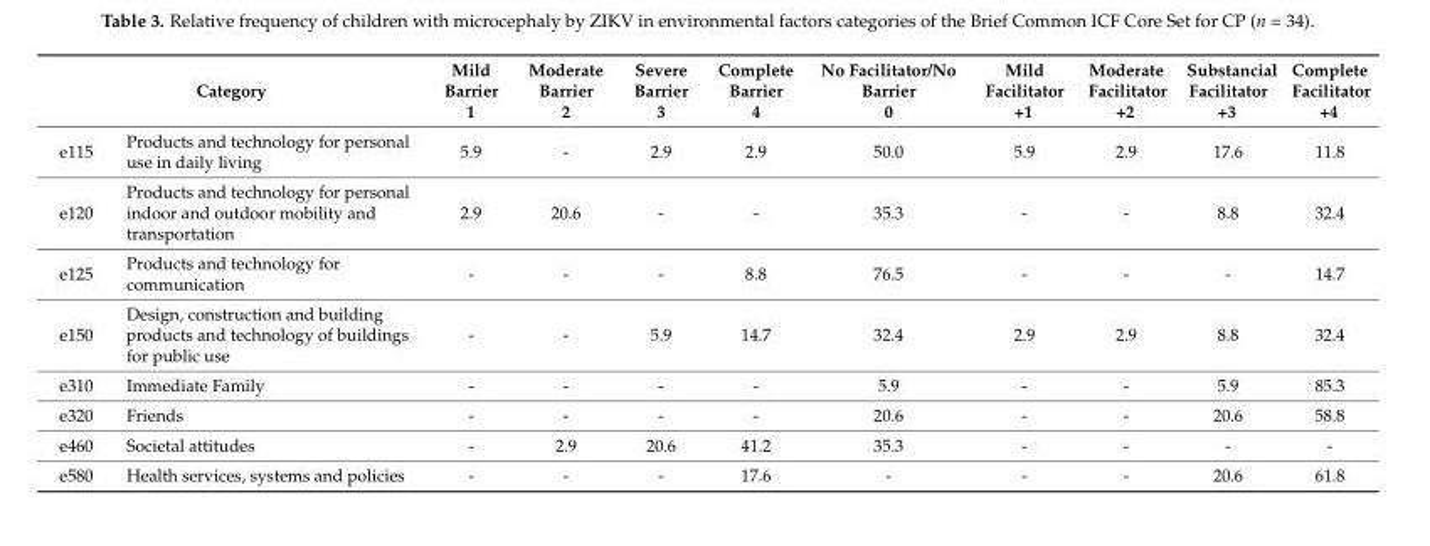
<table><thead><tr><td colspan="2">Category</td><td rowspan="2">Mild Barrier 1 5.9</td><td rowspan="2">Moderate Barrier 2 -</td><td rowspan="2">Severe Barrier 3 2.9</td><td rowspan="2">Complete Barrier 4 2.9</td><td rowspan="2">No Facilitator/No Barrier 0 50.0</td><td rowspan="2">Mild Facilitator +1 5.9</td><td rowspan="2">Moderate Facilitator +2 2.9</td><td rowspan="2">Substancial Facilitator +3 17.6</td><td rowspan="2">Complete Facilitator +4 11.8</td></tr><tr><td>e115</td><td>Products and technology for personal use in daily living</td></tr></thead><tbody><tr><td>e120</td><td>Products and technology for personal indoor and outdoor mobility and transportation</td><td>2.9</td><td>20.6</td><td>-</td><td>-</td><td>35.3</td><td>-</td><td>-</td><td>8.8</td><td>32.4</td></tr><tr><td>e125</td><td>Products and technology for communication</td><td>-</td><td>-</td><td>-</td><td>8.8</td><td>76.5</td><td>-</td><td>-</td><td>-</td><td>14.7</td></tr><tr><td>e150</td><td>Design, construction and building products and technology of buildings for public use</td><td>-</td><td>-</td><td>5.9</td><td>14.7</td><td>32.4</td><td>2.9</td><td>2.9</td><td>8.8</td><td>32.4</td></tr><tr><td>e310</td><td>Immediate Family</td><td>-</td><td>-</td><td>-</td><td>-</td><td>5.9</td><td>-</td><td>-</td><td>5.9</td><td>85.3</td></tr><tr><td>e320</td><td>Friends</td><td>-</td><td>-</td><td>-</td><td>-</td><td>20.6</td><td>-</td><td>-</td><td>20.6</td><td>58.8</td></tr><tr><td>e460</td><td>Societal attitudes</td><td>-</td><td>2.9</td><td>20.6</td><td>41.2</td><td>35.3</td><td>-</td><td>-</td><td>-</td><td>-</td></tr><tr><td>e580</td><td>Health services, systems and policies</td><td>-</td><td>-</td><td>-</td><td>17.6</td><td>-</td><td>-</td><td>-</td><td>20.6</td><td>61.8</td></tr></tbody></table>